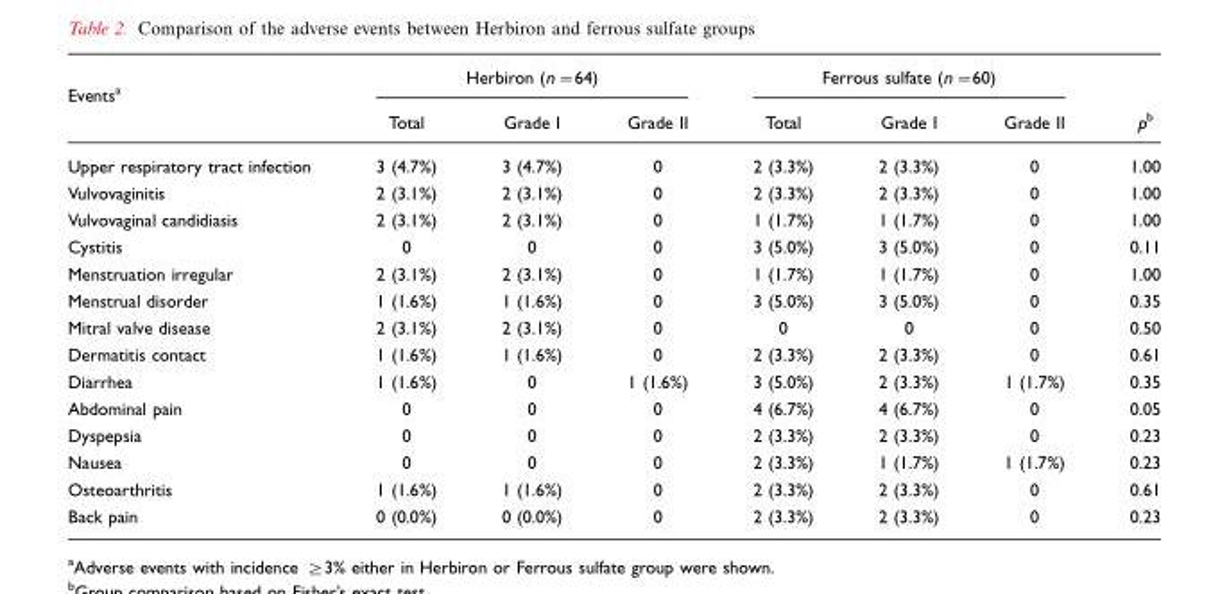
<table><thead><tr><td rowspan="2">Events<sup>a</sup></td><td colspan="3">Herbiron (n=64)</td><td colspan="3">Ferrous sulfate (n=60)</td><td rowspan="2">p<sup>b</sup></td></tr><tr><td>Total</td><td>Grade I</td><td>Grade II</td><td>Total</td><td>Grade I</td><td>Grade II</td></tr></thead><tbody><tr><td>Upper respiratory tract infection</td><td>3 (4.7%)</td><td>3 (4.7%)</td><td>0</td><td>2 (3.3%)</td><td>2 (3.3%)</td><td>0</td><td>1.00</td></tr><tr><td>Vulvovaginitis</td><td>2 (3.1%)</td><td>2 (3.1%)</td><td>0</td><td>2 (3.3%)</td><td>2 (3.3%)</td><td>0</td><td>1.00</td></tr><tr><td>Vulvovaginal candidiasis</td><td>2 (3.1%)</td><td>2 (3.1%)</td><td>0</td><td>1 (1.7%)</td><td>1 (1.7%)</td><td>0</td><td>1.00</td></tr><tr><td>Cystitis</td><td>0</td><td>0</td><td>0</td><td>3 (5.0%)</td><td>3 (5.0%)</td><td>0</td><td>0.11</td></tr><tr><td>Menstruation irregular</td><td>2 (3.1%)</td><td>2 (3.1%)</td><td>0</td><td>1 (1.7%)</td><td>1 (1.7%)</td><td>0</td><td>1.00</td></tr><tr><td>Menstrual disorder</td><td>1 (1.6%)</td><td>1 (1.6%)</td><td>0</td><td>3 (5.0%)</td><td>3 (5.0%)</td><td>0</td><td>0.35</td></tr><tr><td>Mitral valve disease</td><td>2 (3.1%)</td><td>2 (3.1%)</td><td>0</td><td>0</td><td>0</td><td>0</td><td>0.50</td></tr><tr><td>Dermatitis contact</td><td>1 (1.6%)</td><td>1 (1.6%)</td><td>0</td><td>2 (3.3%)</td><td>2 (3.3%)</td><td>0</td><td>0.61</td></tr><tr><td>Diarrhea</td><td>1 (1.6%)</td><td>0</td><td>1 (1.6%)</td><td>3 (5.0%)</td><td>2 (3.3%)</td><td>1 (1.7%)</td><td>0.35</td></tr><tr><td>Abdominal pain</td><td>0</td><td>0</td><td>0</td><td>4 (6.7%)</td><td>4 (6.7%)</td><td>0</td><td>0.05</td></tr><tr><td>Dyspepsia</td><td>0</td><td>0</td><td>0</td><td>2 (3.3%)</td><td>2 (3.3%)</td><td>0</td><td>0.23</td></tr><tr><td>Nausea</td><td>0</td><td>0</td><td>0</td><td>2 (3.3%)</td><td>1 (1.7%)</td><td>1 (1.7%)</td><td>0.23</td></tr><tr><td>Osteoarthritis</td><td>1 (1.6%)</td><td>1 (1.6%)</td><td>0</td><td>2 (3.3%)</td><td>2 (3.3%)</td><td>0</td><td>0.61</td></tr><tr><td>Back pain</td><td>0 (0.0%)</td><td>0 (0.0%)</td><td>0</td><td>2 (3.3%)</td><td>2 (3.3%)</td><td>0</td><td>0.23</td></tr></tbody></table>